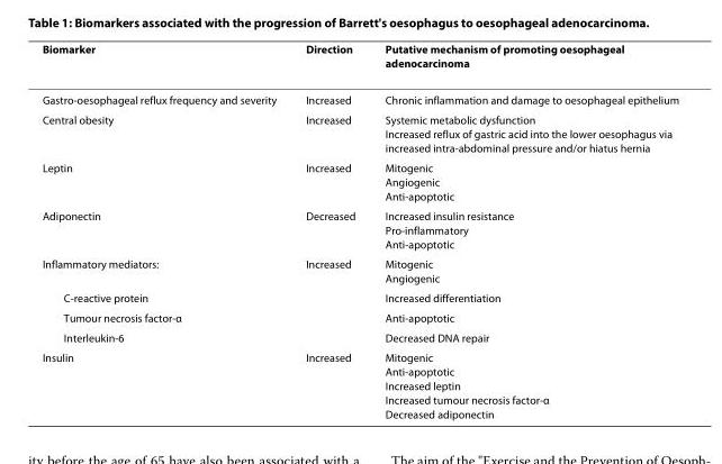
<table><thead><tr><td>Biomarker</td><td>Direction</td><td>Putative mechanism of promoting oesophageal adenocarcinoma</td></tr></thead><tbody><tr><td>Gastro-oesophageal reflux frequency and severity</td><td>Increased</td><td>Chronic inflammation and damage to oesophageal epithelium</td></tr><tr><td>Central obesity</td><td>Increased</td><td>Systemic metabolic dysfunction Increased reflux of gastric acid into the lower oesophagus via increased intra-abdominal pressure and/or hiatus hernia</td></tr><tr><td>Leptin</td><td>Increased</td><td>Mitogenic Angiogenic Anti-apoptotic</td></tr><tr><td>Adiponectin</td><td>Decreased</td><td>Increased insulin resistance Pro-inflammatory Anti-apoptotic</td></tr><tr><td>Inflammatory mediators:</td><td>Increased</td><td>Mitogenic Angiogenic</td></tr><tr><td>C-reactive protein</td><td></td><td>Increased differentiation</td></tr><tr><td>Tumour necrosis factor-α</td><td></td><td>Anti-apoptotic</td></tr><tr><td>Interleukin-6</td><td></td><td>Decreased DNA repair</td></tr><tr><td>Insulin</td><td>Increased</td><td>Mitogenic Anti-apoptotic Increased leptin Increased tumour necrosis factor-α Decreased adiponectin</td></tr></tbody></table>